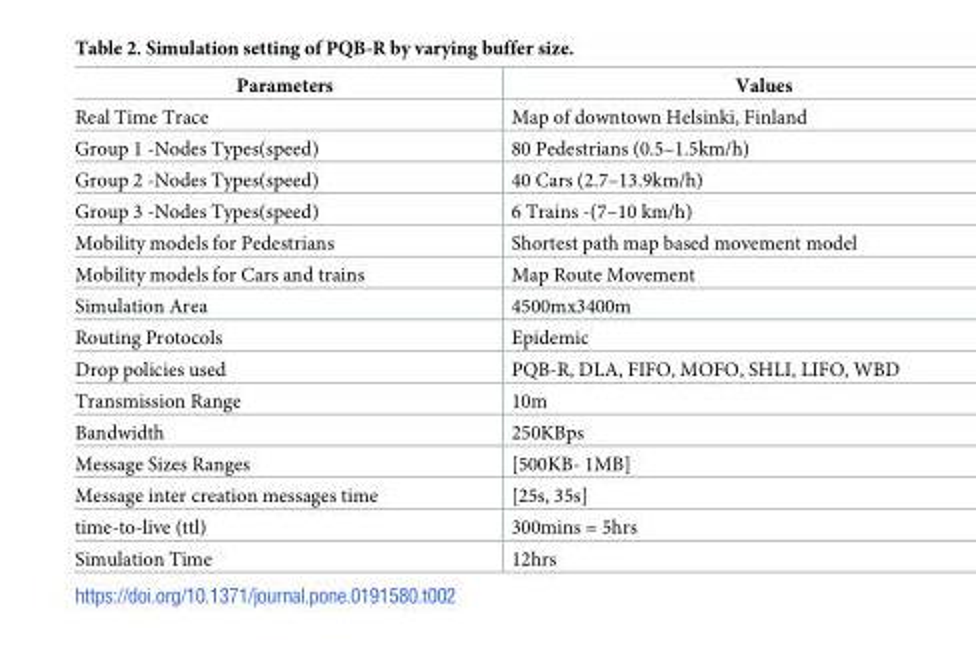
<table><thead><tr><td>Parameters</td><td>Values</td></tr></thead><tbody><tr><td>Real Time Trace</td><td>Map of downtown Helsinki, Finland</td></tr><tr><td>Group 1 -Nodes Types(speed)</td><td>80 Pedestrians (0.5–1.5km/h)</td></tr><tr><td>Group 2 -Nodes Types(speed)</td><td>40 Cars (2.7–13.9km/h)</td></tr><tr><td>Group 3 -Nodes Types(speed)</td><td>6 Trains -(7–10 km/h)</td></tr><tr><td>Mobility models for Pedestrians</td><td>Shortest path map based movement model</td></tr><tr><td>Mobility models for Cars and trains</td><td>Map Route Movement</td></tr><tr><td>Simulation Area</td><td>4500mx3400m</td></tr><tr><td>Routing Protocols</td><td>Epidemic</td></tr><tr><td>Drop policies used</td><td>PQB-R, DLA, FIFO, MOFO, SHLI, LIFO, WBD</td></tr><tr><td>Transmission Range</td><td>10m</td></tr><tr><td>Bandwidth</td><td>250KBps</td></tr><tr><td>Message Sizes Ranges</td><td>[500KB- 1MB]</td></tr><tr><td>Message inter creation messages time</td><td>[25s, 35s]</td></tr><tr><td>time-to-live (ttl)</td><td>300mins = 5hrs</td></tr><tr><td>Simulation Time</td><td>12hrs</td></tr></tbody></table>